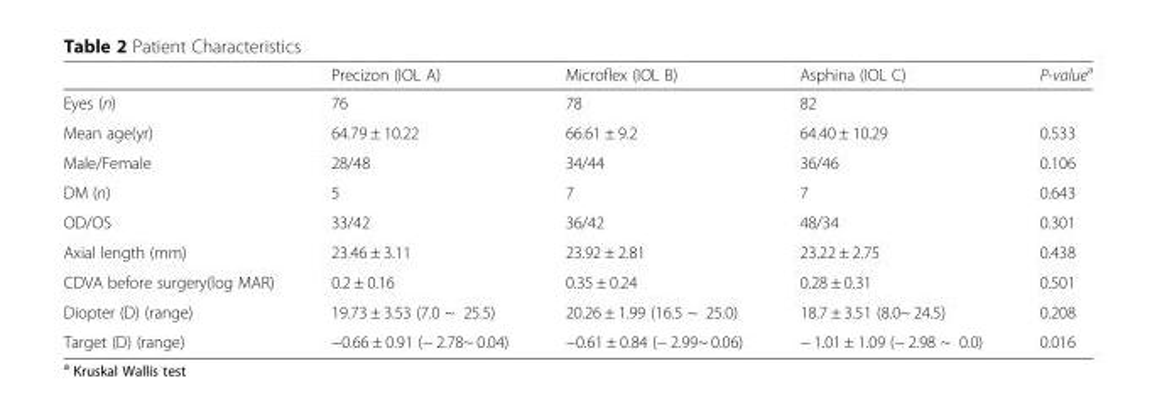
<table><thead><tr><td></td><td>Precizon (IOL A)</td><td>Microflex (IOL B)</td><td>Asphina (IOL C)</td><td>P-value<sup>a</sup></td></tr></thead><tbody><tr><td>Eyes (n)</td><td>76</td><td>78</td><td>82</td><td></td></tr><tr><td>Mean age(yr)</td><td>64.79 ± 10.22</td><td>66.61 ± 9.2</td><td>64.40 ± 10.29</td><td>0.533</td></tr><tr><td>Male/Female</td><td>28/48</td><td>34/44</td><td>36/46</td><td>0.106</td></tr><tr><td>DM (n)</td><td>5</td><td>7</td><td>7</td><td>0.643</td></tr><tr><td>OD/OS</td><td>33/42</td><td>36/42</td><td>48/34</td><td>0.301</td></tr><tr><td>Axial length (mm)</td><td>23.46 ± 3.11</td><td>23.92 ± 2.81</td><td>23.22 ± 2.75</td><td>0.438</td></tr><tr><td>CDVA before surgery(log MAR)</td><td>0.2 ± 0.16</td><td>0.35 ± 0.24</td><td>0.28 ± 0.31</td><td>0.501</td></tr><tr><td>Diopter (D) (range)</td><td>19.73 ± 3.53 (7.0 ~ 25.5)</td><td>20.26 ± 1.99 (16.5 ~ 25.0)</td><td>18.7 ± 3.51 (8.0~ 24.5)</td><td>0.208</td></tr><tr><td>Target (D) (range)</td><td>−0.66 ± 0.91 (− 2.78~ 0.04)</td><td>−0.61 ± 0.84 (− 2.99~ 0.06)</td><td>− 1.01 ± 1.09 (− 2.98 ~ 0.0)</td><td>0.016</td></tr></tbody></table>